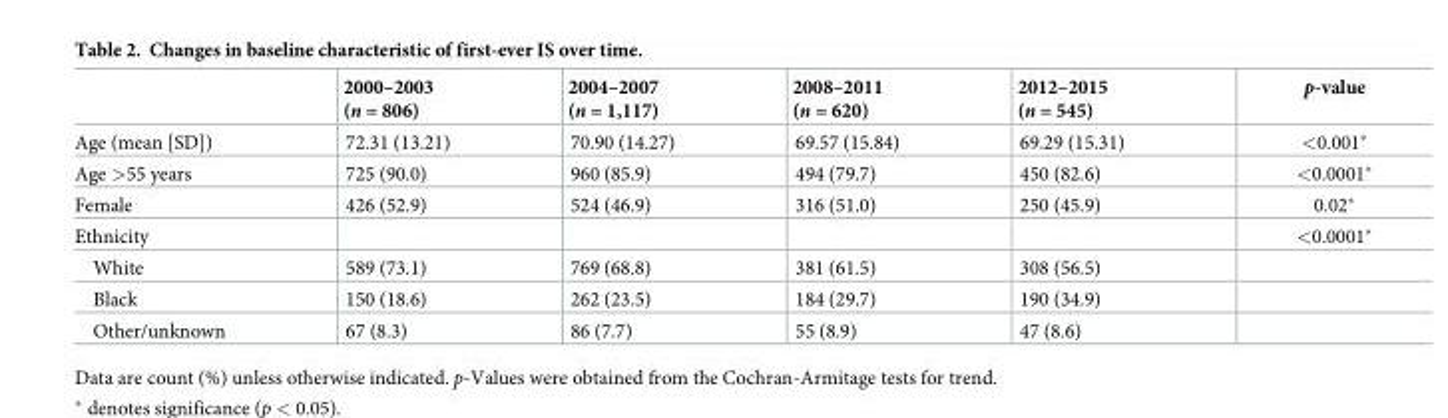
<table><thead><tr><td></td><td>2000–2003 (n = 806)</td><td>2004–2007 (n = 1,117)</td><td>2008–2011 (n = 620)</td><td>2012–2015 (n = 545)</td><td>p-value</td></tr></thead><tbody><tr><td>Age (mean [SD])</td><td>72.31 (13.21)</td><td>70.90 (14.27)</td><td>69.57 (15.84)</td><td>69.29 (15.31)</td><td>&lt;0.001*</td></tr><tr><td>Age &gt;55 years</td><td>725 (90.0)</td><td>960 (85.9)</td><td>494 (79.7)</td><td>450 (82.6)</td><td>&lt;0.0001*</td></tr><tr><td>Female</td><td>426 (52.9)</td><td>524 (46.9)</td><td>316 (51.0)</td><td>250 (45.9)</td><td>0.02*</td></tr><tr><td>Ethnicity</td><td></td><td></td><td></td><td></td><td>&lt;0.0001*</td></tr><tr><td>White</td><td>589 (73.1)</td><td>769 (68.8)</td><td>381 (61.5)</td><td>308 (56.5)</td><td></td></tr><tr><td>Black</td><td>150 (18.6)</td><td>262 (23.5)</td><td>184 (29.7)</td><td>190 (34.9)</td><td></td></tr><tr><td>Other/unknown</td><td>67 (8.3)</td><td>86 (7.7)</td><td>55 (8.9)</td><td>47 (8.6)</td><td></td></tr></tbody></table>